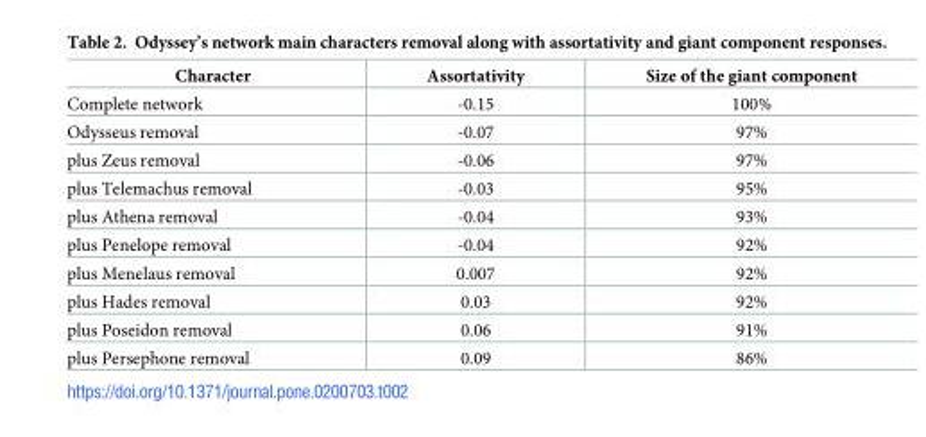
<table><thead><tr><td>Character</td><td>Assortativity</td><td>Size of the giant component</td></tr></thead><tbody><tr><td>Complete network</td><td>-0.15</td><td>100%</td></tr><tr><td>Odysseus removal</td><td>-0.07</td><td>97%</td></tr><tr><td>plus Zeus removal</td><td>-0.06</td><td>97%</td></tr><tr><td>plus Telemachus removal</td><td>-0.03</td><td>95%</td></tr><tr><td>plus Athena removal</td><td>-0.04</td><td>93%</td></tr><tr><td>plus Penelope removal</td><td>-0.04</td><td>92%</td></tr><tr><td>plus Menelaus removal</td><td>0.007</td><td>92%</td></tr><tr><td>plus Hades removal</td><td>0.03</td><td>92%</td></tr><tr><td>plus Poseidon removal</td><td>0.06</td><td>91%</td></tr><tr><td>plus Persephone removal</td><td>0.09</td><td>86%</td></tr></tbody></table>